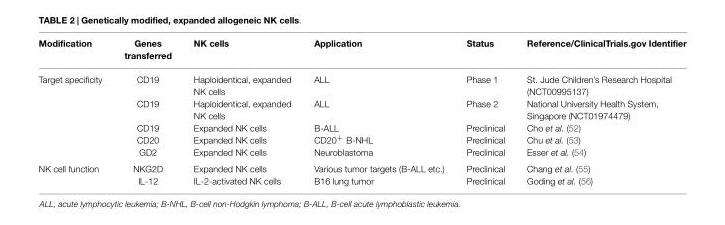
<table><thead><tr><td>Modification</td><td>Genes transferred</td><td>NK cells</td><td>Application</td><td>Status</td><td>Reference/ClinicalTrials.gov Identifier</td></tr></thead><tbody><tr><td rowspan="5">Target specificity</td><td>CD19</td><td>Haploidentical, expanded NK cells</td><td>ALL</td><td>Phase 1</td><td>St. Jude Children’s Research Hospital (NCT00995137)</td></tr><tr><td>CD19</td><td>Haploidentical, expanded NK cells</td><td>ALL</td><td>Phase 2</td><td>National University Health System, Singapore (NCT01974479)</td></tr><tr><td>CD19</td><td>Expanded NK cells</td><td>B-ALL</td><td>Preclinical</td><td>Cho et al. (52)</td></tr><tr><td>CD20</td><td>Expanded NK cells</td><td>CD20<sup>+</sup> B-NHL</td><td>Preclinical</td><td>Chu et al. (53)</td></tr><tr><td>GD2</td><td>Expanded NK cells</td><td>Neuroblastoma</td><td>Preclinical</td><td>Esser et al. (54)</td></tr><tr><td rowspan="2">NK cell function</td><td>NKG2D</td><td>Expanded NK cells</td><td>Various tumor targets (B-ALL etc.)</td><td>Preclinical</td><td>Chang et al. (55)</td></tr><tr><td>IL-12</td><td>IL-2-activated NK cells</td><td>B16 lung tumor</td><td>Preclinical</td><td>Goding et al. (56)</td></tr></tbody></table>